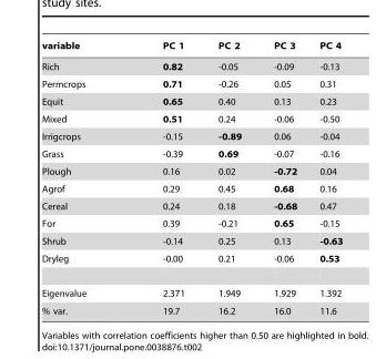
<table><thead><tr><td>variable</td><td>PC 1</td><td>PC 2</td><td>PC 3</td><td>PC 4</td></tr></thead><tbody><tr><td>Rich</td><td>0.82</td><td>-0.05</td><td>-0.09</td><td>-0.13</td></tr><tr><td>Permcrops</td><td>0.71</td><td>-0.26</td><td>0.05</td><td>0.31</td></tr><tr><td>Equit</td><td>0.65</td><td>0.40</td><td>0.13</td><td>0.23</td></tr><tr><td>Mixed</td><td>0.51</td><td>0.24</td><td>-0.06</td><td>-0.50</td></tr><tr><td>Irrigcrops</td><td>-0.15</td><td>-0.89</td><td>0.06</td><td>-0.04</td></tr><tr><td>Grass</td><td>-0.39</td><td>0.69</td><td>-0.07</td><td>-0.16</td></tr><tr><td>Plough</td><td>0.16</td><td>0.02</td><td>-0.72</td><td>0.04</td></tr><tr><td>Agrof</td><td>0.29</td><td>0.45</td><td>0.68</td><td>0.16</td></tr><tr><td>Cereal</td><td>0.24</td><td>0.18</td><td>-0.68</td><td>0.47</td></tr><tr><td>For</td><td>0.39</td><td>-0.21</td><td>0.65</td><td>-0.15</td></tr><tr><td>Shrub</td><td>-0.14</td><td>0.25</td><td>0.13</td><td>-0.63</td></tr><tr><td>Dryleg</td><td>-0.00</td><td>0.21</td><td>-0.06</td><td>0.53</td></tr><tr><td>Eigenvalue</td><td>2.371</td><td>1.949</td><td>1.929</td><td>1.392</td></tr><tr><td>% var.</td><td>19.7</td><td>16.2</td><td>16.0</td><td>11.6</td></tr></tbody></table>